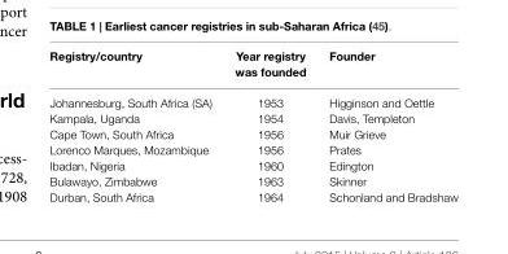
<table><thead><tr><td>Registry/country</td><td>Year registry was founded</td><td>Founder</td></tr></thead><tbody><tr><td>Johannesburg, South Africa (SA)</td><td>1953</td><td>Higginson and Oettle</td></tr><tr><td>Kampala, Uganda</td><td>1954</td><td>Davis, Templeton</td></tr><tr><td>Cape Town, South Africa</td><td>1956</td><td>Muir Grieve</td></tr><tr><td>Lorenco Marques, Mozambique</td><td>1956</td><td>Prates</td></tr><tr><td>Ibadan, Nigeria</td><td>1960</td><td>Edington</td></tr><tr><td>Bulawayo, Zimbabwe</td><td>1963</td><td>Skinner</td></tr><tr><td>Durban, South Africa</td><td>1964</td><td>Schonland and Bradshaw</td></tr></tbody></table>